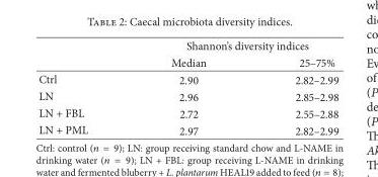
<table><thead><tr><td rowspan="2"></td><td colspan="2">Shannon’s diversity indices</td></tr><tr><td>Median</td><td>25–75%</td></tr></thead><tbody><tr><td>Ctrl</td><td>2.90</td><td>2.82–2.99</td></tr><tr><td>LN</td><td>2.96</td><td>2.85–2.98</td></tr><tr><td>LN + FBL</td><td>2.72</td><td>2.55–2.88</td></tr><tr><td>LN + PML</td><td>2.97</td><td>2.82–2.99</td></tr></tbody></table>